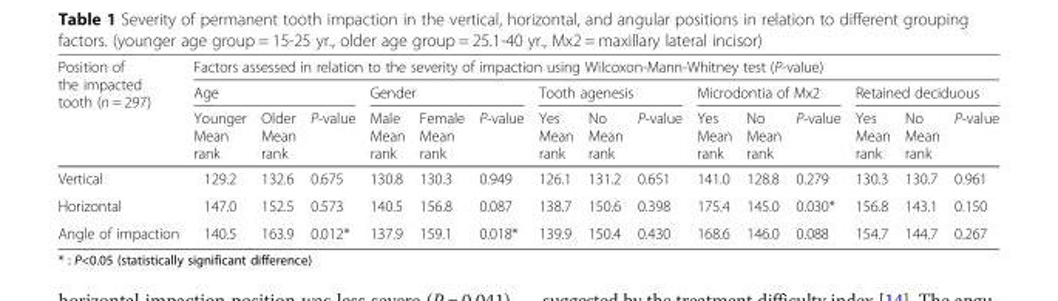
<table><thead><tr><td rowspan="3">Position of the impacted tooth (n = 297)</td><td colspan="15">Factors assessed in relation to the severity of impaction using Wilcoxon-Mann-Whitney test (P-value)</td></tr><tr><td colspan="3">Age</td><td colspan="3">Gender</td><td colspan="3">Tooth agenesis</td><td colspan="3">Microdontia of Mx2</td><td colspan="3">Retained deciduous</td></tr><tr><td>Younger Mean rank</td><td>Older Mean rank</td><td>P-value</td><td>Male Mean rank</td><td>Female Mean rank</td><td>P-value</td><td>Yes Mean rank</td><td>No Mean rank</td><td>P-value</td><td>Yes Mean rank</td><td>No Mean rank</td><td>P-value</td><td>Yes Mean rank</td><td>No Mean rank</td><td>P-value</td></tr></thead><tbody><tr><td>Vertical</td><td>129.2</td><td>132.6</td><td>0.675</td><td>130.8</td><td>130.3</td><td>0.949</td><td>126.1</td><td>131.2</td><td>0.651</td><td>141.0</td><td>128.8</td><td>0.279</td><td>130.3</td><td>130.7</td><td>0.961</td></tr><tr><td>Horizontal</td><td>147.0</td><td>152.5</td><td>0.573</td><td>140.5</td><td>156.8</td><td>0.087</td><td>138.7</td><td>150.6</td><td>0.398</td><td>175.4</td><td>145.0</td><td>0.030*</td><td>156.8</td><td>143.1</td><td>0.150</td></tr><tr><td>Angle of impaction</td><td>140.5</td><td>163.9</td><td>0.012*</td><td>137.9</td><td>159.1</td><td>0.018*</td><td>139.9</td><td>150.4</td><td>0.430</td><td>168.6</td><td>146.0</td><td>0.088</td><td>154.7</td><td>144.7</td><td>0.267</td></tr></tbody></table>